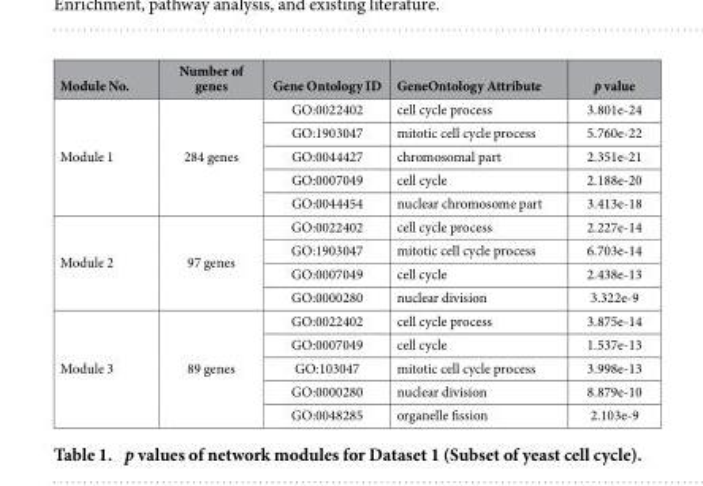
<table><thead><tr><td>Module No.</td><td>Number of genes</td><td>Gene Ontology ID</td><td>GeneOntology Attribute</td><td>p value</td></tr></thead><tbody><tr><td rowspan="5">Module 1</td><td rowspan="5">284 genes</td><td>GO:0022402</td><td>cell cycle process</td><td>3.801e-24</td></tr><tr><td>GO:1903047</td><td>mitotic cell cycle process</td><td>5.760e-22</td></tr><tr><td>GO:0044427</td><td>chromosomal part</td><td>2.351e-21</td></tr><tr><td>GO:0007049</td><td>cell cycle</td><td>2.188e-20</td></tr><tr><td>GO:0044454</td><td>nuclear chromosome part</td><td>3.413e-18</td></tr><tr><td rowspan="4">Module 2</td><td rowspan="4">97 genes</td><td>GO:0022402</td><td>cell cycle process</td><td>2.227e-14</td></tr><tr><td>GO:1903047</td><td>mitotic cell cycle process</td><td>6.703e-14</td></tr><tr><td>GO:0007049</td><td>cell cycle</td><td>2.438e-13</td></tr><tr><td>GO:0000280</td><td>nuclear division</td><td>3.322e-9</td></tr><tr><td rowspan="5">Module 3</td><td rowspan="5">89 genes</td><td>GO:0022402</td><td>cell cycle process</td><td>3.875e-14</td></tr><tr><td>GO:0007049</td><td>cell cycle</td><td>1.537e-13</td></tr><tr><td>GO:103047</td><td>mitotic cell cycle process</td><td>3.998e-13</td></tr><tr><td>GO:0000280</td><td>nuclear division</td><td>8.879e-10</td></tr><tr><td>GO:0048285</td><td>organelle fission</td><td>2.103e-9</td></tr></tbody></table>